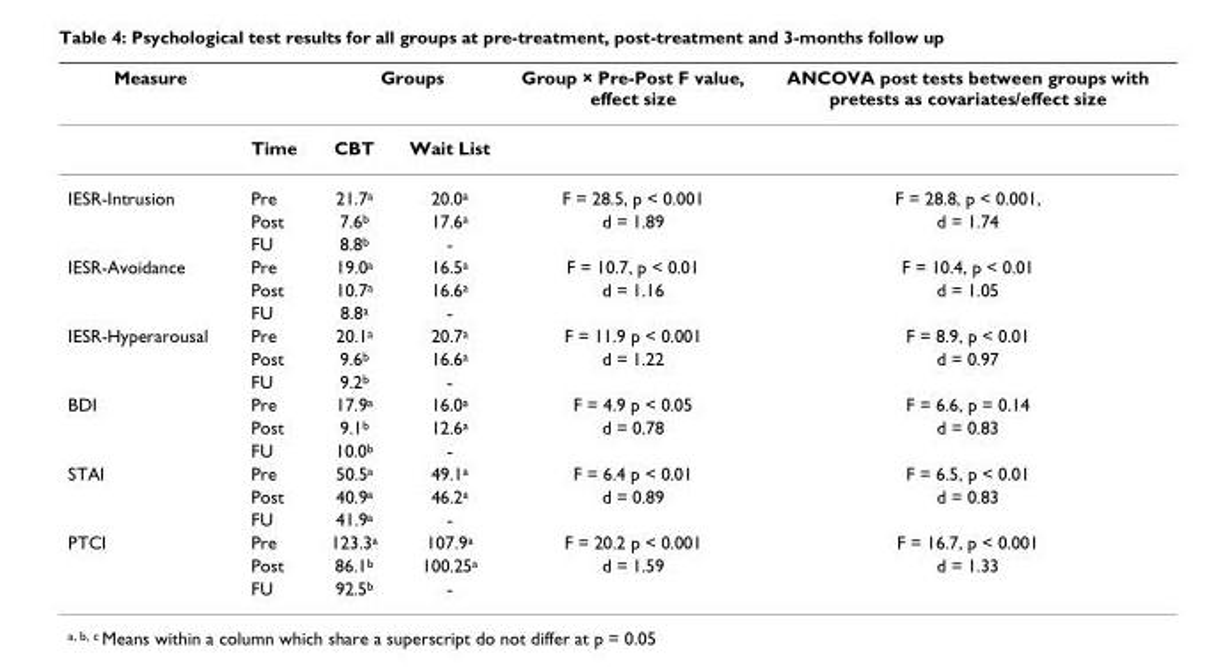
<table><thead><tr><td rowspan="2">Measure</td><td rowspan="2">Time</td><td colspan="2">Groups</td><td rowspan="2">Group × Pre-Post F value, effect size</td><td rowspan="2">ANCOVA post tests between groups with pretests as covariates/effect size</td></tr><tr><td>CBT</td><td>Wait List</td></tr></thead><tbody><tr><td rowspan="3">IESR-Intrusion</td><td>Pre</td><td>21.7<sup>a</sup></td><td>20.0<sup>a</sup></td><td>F = 28.5, p &lt; 0.001</td><td>F = 28.8, p &lt; 0.001,</td></tr><tr><td>Post</td><td>7.6<sup>b</sup></td><td>17.6<sup>a</sup></td><td>d = 1.89</td><td>d = 1.74</td></tr><tr><td>FU</td><td>8.8<sup>b</sup></td><td>-</td><td></td><td></td></tr><tr><td rowspan="3">IESR-Avoidance</td><td>Pre</td><td>19.0<sup>a</sup></td><td>16.5<sup>a</sup></td><td>F = 10.7, p &lt; 0.01</td><td>F = 10.4, p &lt; 0.01</td></tr><tr><td>Post</td><td>10.7<sup>a</sup></td><td>16.6<sup>a</sup></td><td>d = 1.16</td><td>d = 1.05</td></tr><tr><td>FU</td><td>8.8<sup>a</sup></td><td>-</td><td></td><td></td></tr><tr><td rowspan="3">IESR-Hyperarousal</td><td>Pre</td><td>20.1<sup>a</sup></td><td>20.7<sup>a</sup></td><td>F = 11.9 p &lt; 0.001</td><td>F = 8.9, p &lt; 0.01</td></tr><tr><td>Post</td><td>9.6<sup>b</sup></td><td>16.6<sup>a</sup></td><td>d = 1.22</td><td>d = 0.97</td></tr><tr><td>FU</td><td>9.2<sup>b</sup></td><td>-</td><td></td><td></td></tr><tr><td rowspan="3">BDI</td><td>Pre</td><td>17.9<sup>a</sup></td><td>16.0<sup>a</sup></td><td>F = 4.9 p &lt; 0.05</td><td>F = 6.6, p = 0.14</td></tr><tr><td>Post</td><td>9.1<sup>b</sup></td><td>12.6<sup>a</sup></td><td>d = 0.78</td><td>d = 0.83</td></tr><tr><td>FU</td><td>10.0<sup>b</sup></td><td>-</td><td></td><td></td></tr><tr><td rowspan="3">STAI</td><td>Pre</td><td>50.5<sup>a</sup></td><td>49.1<sup>a</sup></td><td>F = 6.4 p &lt; 0.01</td><td>F = 6.5, p &lt; 0.01</td></tr><tr><td>Post</td><td>40.9<sup>a</sup></td><td>46.2<sup>a</sup></td><td>d = 0.89</td><td>d = 0.83</td></tr><tr><td>FU</td><td>41.9<sup>a</sup></td><td>-</td><td></td><td></td></tr><tr><td rowspan="3">PTCI</td><td>Pre</td><td>123.3<sup>a</sup></td><td>107.9<sup>a</sup></td><td>F = 20.2 p &lt; 0.001</td><td>F = 16.7, p &lt; 0.001</td></tr><tr><td>Post</td><td>86.1<sup>b</sup></td><td>100.25<sup>a</sup></td><td>d = 1.59</td><td>d = 1.33</td></tr><tr><td>FU</td><td>92.5<sup>b</sup></td><td>-</td><td></td><td></td></tr></tbody></table>